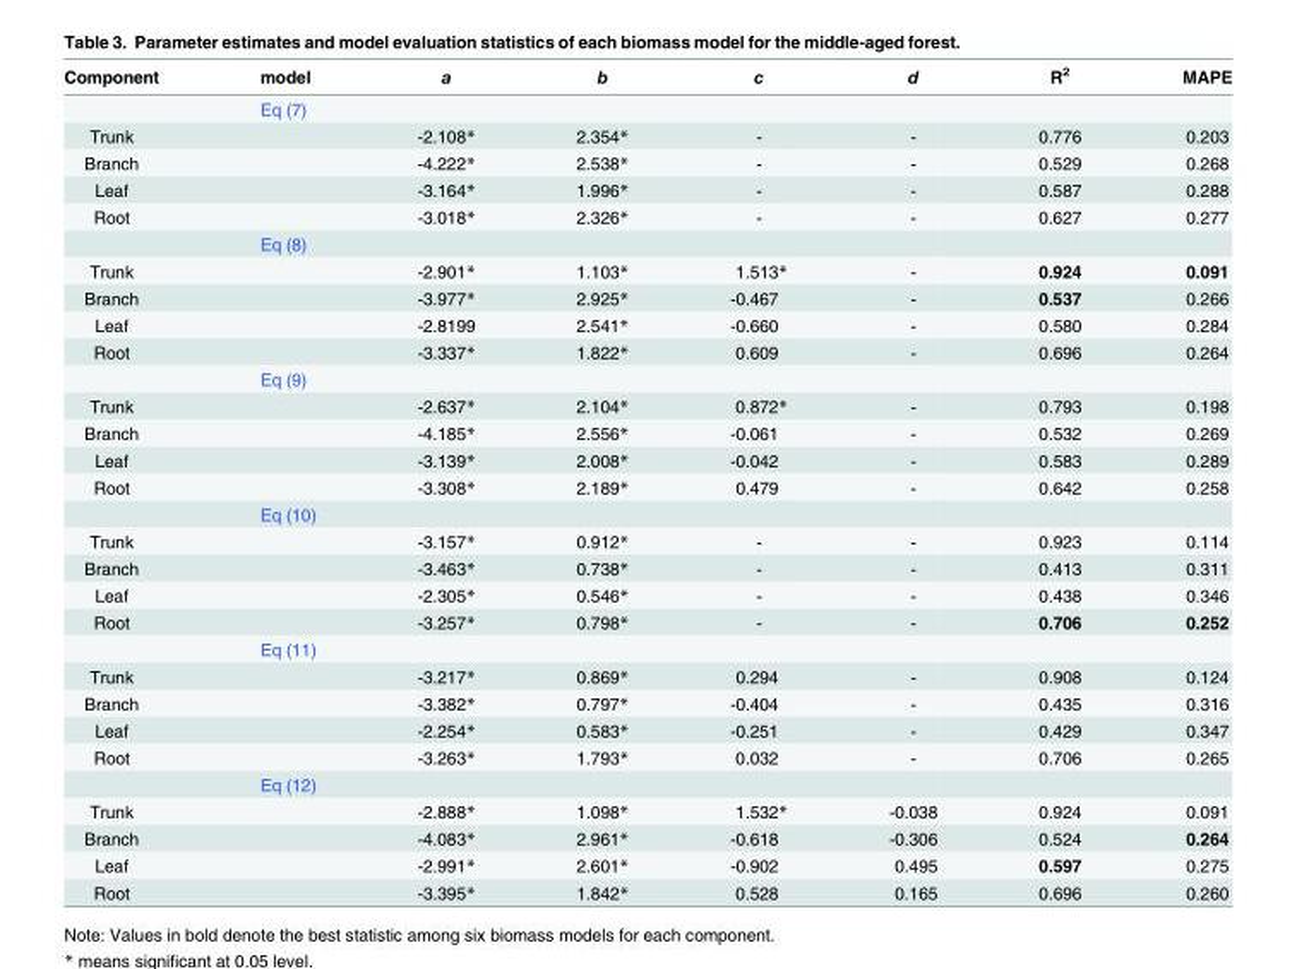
<table><thead><tr><td>Component</td><td>model</td><td>a</td><td>b</td><td>c</td><td>d</td><td>R<sup>2</sup></td><td>MAPE</td></tr></thead><tbody><tr><td></td><td>Eq (7)</td><td></td><td></td><td></td><td></td><td></td><td></td></tr><tr><td>Trunk</td><td></td><td>-2.108*</td><td>2.354*</td><td>-</td><td>-</td><td>0.776</td><td>0.203</td></tr><tr><td>Branch</td><td></td><td>-4.222*</td><td>2.538*</td><td>-</td><td>-</td><td>0.529</td><td>0.268</td></tr><tr><td>Leaf</td><td></td><td>-3.164*</td><td>1.996*</td><td>-</td><td>-</td><td>0.587</td><td>0.288</td></tr><tr><td rowspan="2">Root</td><td></td><td>-3.018*</td><td>2.326*</td><td>-</td><td>-</td><td>0.627</td><td>0.277</td></tr><tr><td>Eq (8)</td><td></td><td></td><td></td><td></td><td></td><td></td></tr><tr><td>Trunk</td><td></td><td>-2.901*</td><td>1.103*</td><td>1.513*</td><td>-</td><td>0.924</td><td>0.091</td></tr><tr><td>Branch</td><td></td><td>-3.977*</td><td>2.925*</td><td>-0.467</td><td>-</td><td>0.537</td><td>0.266</td></tr><tr><td>Leaf</td><td></td><td>-2.8199</td><td>2.541*</td><td>-0.660</td><td>-</td><td>0.580</td><td>0.284</td></tr><tr><td rowspan="2">Root</td><td></td><td>-3.337*</td><td>1.822*</td><td>0.609</td><td>-</td><td>0.696</td><td>0.264</td></tr><tr><td>Eq (9)</td><td></td><td></td><td></td><td></td><td></td><td></td></tr><tr><td>Trunk</td><td></td><td>-2.637*</td><td>2.104*</td><td>0.872*</td><td>-</td><td>0.793</td><td>0.198</td></tr><tr><td>Branch</td><td></td><td>-4.185*</td><td>2.556*</td><td>-0.061</td><td>-</td><td>0.532</td><td>0.269</td></tr><tr><td>Leaf</td><td></td><td>-3.139*</td><td>2.008*</td><td>-0.042</td><td>-</td><td>0.583</td><td>0.289</td></tr><tr><td rowspan="2">Root</td><td></td><td>-3.308*</td><td>2.189*</td><td>0.479</td><td>-</td><td>0.642</td><td>0.258</td></tr><tr><td>Eq (10)</td><td></td><td></td><td></td><td></td><td></td><td></td></tr><tr><td>Trunk</td><td></td><td>-3.157*</td><td>0.912*</td><td>-</td><td>-</td><td>0.923</td><td>0.114</td></tr><tr><td>Branch</td><td></td><td>-3.463*</td><td>0.738*</td><td>-</td><td>-</td><td>0.413</td><td>0.311</td></tr><tr><td>Leaf</td><td></td><td>-2.305*</td><td>0.546*</td><td>-</td><td>-</td><td>0.438</td><td>0.346</td></tr><tr><td rowspan="2">Root</td><td></td><td>-3.257*</td><td>0.798*</td><td>-</td><td>-</td><td>0.706</td><td>0.252</td></tr><tr><td>Eq (11)</td><td></td><td></td><td></td><td></td><td></td><td></td></tr><tr><td>Trunk</td><td></td><td>-3.217*</td><td>0.869*</td><td>0.294</td><td>-</td><td>0.908</td><td>0.124</td></tr><tr><td>Branch</td><td></td><td>-3.382*</td><td>0.797*</td><td>-0.404</td><td>-</td><td>0.435</td><td>0.316</td></tr><tr><td>Leaf</td><td></td><td>-2.254*</td><td>0.583*</td><td>-0.251</td><td>-</td><td>0.429</td><td>0.347</td></tr><tr><td rowspan="2">Root</td><td></td><td>-3.263*</td><td>1.793*</td><td>0.032</td><td>-</td><td>0.706</td><td>0.265</td></tr><tr><td>Eq (12)</td><td></td><td></td><td></td><td></td><td></td><td></td></tr><tr><td>Trunk</td><td></td><td>-2.888*</td><td>1.098*</td><td>1.532*</td><td>-0.038</td><td>0.924</td><td>0.091</td></tr><tr><td>Branch</td><td></td><td>-4.083*</td><td>2.961*</td><td>-0.618</td><td>-0.306</td><td>0.524</td><td>0.264</td></tr><tr><td>Leaf</td><td></td><td>-2.991*</td><td>2.601*</td><td>-0.902</td><td>0.495</td><td>0.597</td><td>0.275</td></tr><tr><td>Root</td><td></td><td>-3.395*</td><td>1.842*</td><td>0.528</td><td>0.165</td><td>0.696</td><td>0.260</td></tr></tbody></table>